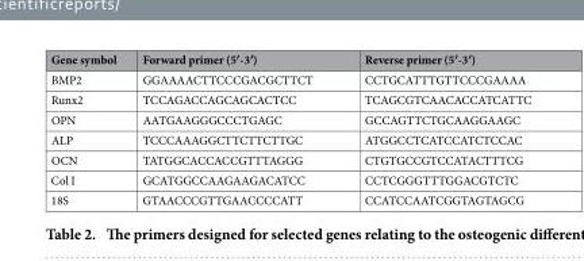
<table><thead><tr><td>Gene symbol</td><td>Forward primer (5′-3′)</td><td>Reverse primer (5′-3′)</td></tr></thead><tbody><tr><td>BMP2</td><td>GGAAAACTTCCCGACGCTTCT</td><td>CCTGCATTTGTTCCCGAAAA</td></tr><tr><td>Runx2</td><td>TCCAGACCAGCAGCACTCC</td><td>TCAGCGTCAACACCATCATTC</td></tr><tr><td>OPN</td><td>AATGAAGGGCCCTGAGC</td><td>GCCAGTTCTGCAAGGAAGC</td></tr><tr><td>ALP</td><td>TCCCAAAGGCTTCTTCTTGC</td><td>ATGGCCTCATCCATCTCCAC</td></tr><tr><td>OCN</td><td>TATGGCACCACCGTTTAGGG</td><td>CTGTGCCGTCCATACTTTCG</td></tr><tr><td>Col I</td><td>GCATGGCCAAGAAGACATCC</td><td>CCTCGGGTTTGGACGTCTC</td></tr><tr><td>18S</td><td>GTAACCCGTTGAACCCCATT</td><td>CCATCCAATCGGTAGTAGCG</td></tr></tbody></table>